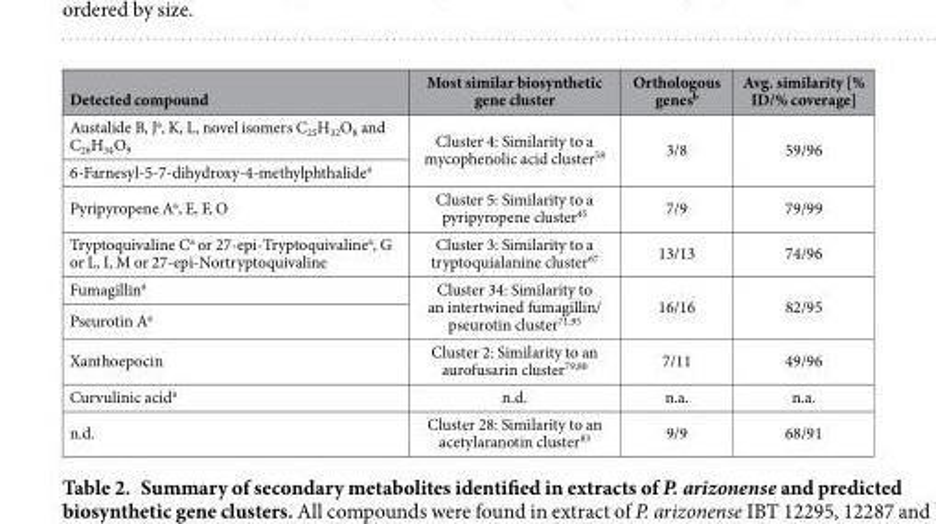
<table><thead><tr><td>Detected compound</td><td>Most similar biosynthetic gene cluster</td><td>Orthologous genes<sup>b</sup></td><td>Avg. similarity [% ID/% coverage]</td></tr></thead><tbody><tr><td>Austalide B, J<sup>a</sup>, K, L, novel isomers C<sub>25</sub>H<sub>32</sub>O<sub>8</sub> and C<sub>26</sub>H<sub>34</sub>O<sub>9</sub></td><td rowspan="2">Cluster 4: Similarity to a mycophenolic acid cluster<sup>58</sup></td><td rowspan="2">3/8</td><td rowspan="2">59/96</td></tr><tr><td>6-Farnesyl-5-7-dihydroxy-4-methylphthalide<sup>a</sup></td></tr><tr><td>Pyripyropene A<sup>a</sup>, E, F, O</td><td>Cluster 5: Similarity to a pyripyropene cluster<sup>45</sup></td><td>7/9</td><td>79/99</td></tr><tr><td>Tryptoquivaline C<sup>a</sup> or 27-epi-Tryptoquivaline<sup>a</sup>, G or L, I, M or 27-epi-Nortryptoquivaline</td><td>Cluster 3: Similarity to a tryptoquialanine cluster<sup>67</sup></td><td>13/13</td><td>74/96</td></tr><tr><td>Fumagillin<sup>a</sup></td><td rowspan="2">Cluster 34: Similarity to an intertwined fumagillin/ pseurotin cluster<sup>71</sup>,<sup>95</sup></td><td rowspan="2">16/16</td><td rowspan="2">82/95</td></tr><tr><td>Pseurotin A<sup>a</sup></td></tr><tr><td>Xanthoepocin</td><td>Cluster 2: Similarity to an aurofusarin cluster<sup>79</sup>,<sup>80</sup></td><td>7/11</td><td>49/96</td></tr><tr><td>Curvulinic acid<sup>a</sup></td><td>n.d.</td><td>n.a.</td><td>n.a.</td></tr><tr><td>n.d.</td><td>Cluster 28: Similarity to an acetylaranotin cluster<sup>83</sup></td><td>9/9</td><td>68/91</td></tr></tbody></table>